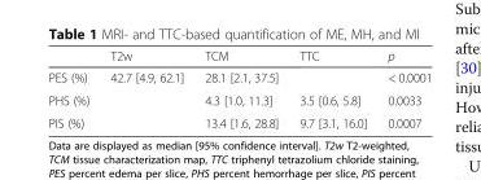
<table><thead><tr><td></td><td>T2w</td><td>TCM</td><td>TTC</td><td>p</td></tr></thead><tbody><tr><td>PES (%)</td><td>42.7 [4.9, 62.1]</td><td>28.1 [2.1, 37.5]</td><td></td><td>&lt; 0.0001</td></tr><tr><td>PHS (%)</td><td></td><td>4.3 [1.0, 11.3]</td><td>3.5 [0.6, 5.8]</td><td>0.0033</td></tr><tr><td>PIS (%)</td><td></td><td>13.4 [1.6, 28.8]</td><td>9.7 [3.1, 16.0]</td><td>0.0007</td></tr></tbody></table>